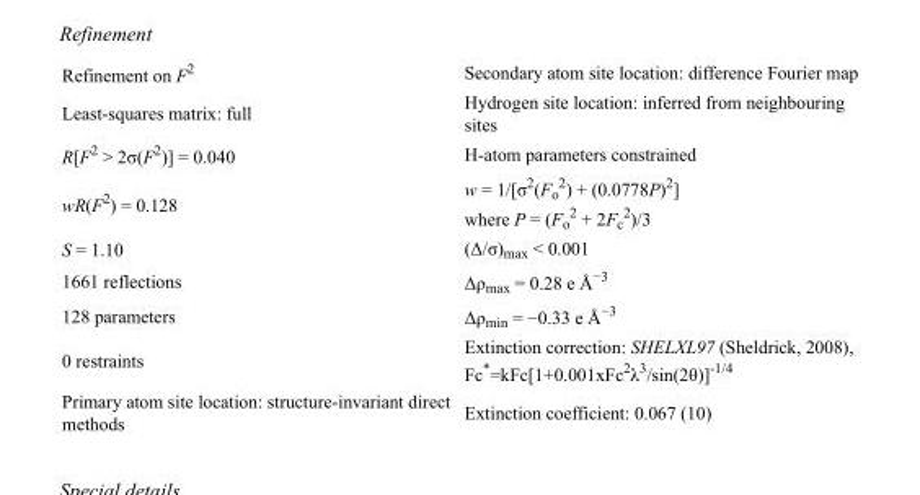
<table><tbody><tr><td>Refinement on F<sup>2</sup></td><td>Secondary atom site location: difference Fourier map</td></tr><tr><td>Least-squares matrix: full</td><td>Hydrogen site location: inferred from neighbouring sites</td></tr><tr><td>R[F<sup>2</sup> &gt; 2σ(F<sup>2</sup>)] = 0.040</td><td>H-atom parameters constrained</td></tr><tr><td>wR(F<sup>2</sup>) = 0.128</td><td>w = 1/[σ<sup>2</sup>(F<sub>o</sub> <sup>2</sup>) + (0.0778P)<sup>2</sup>] where P = (F<sub>o</sub> <sup>2</sup> + 2F<sub>c</sub> <sup>2</sup>)/3</td></tr><tr><td>S = 1.10</td><td>(Δ/σ)<sub>max</sub> &lt; 0.001</td></tr><tr><td>1661 reflections</td><td>Δρ<sub>max</sub> = 0.28 e Å<sup>−3</sup></td></tr><tr><td>128 parameters</td><td>Δρ<sub>min</sub> = −0.33 e Å<sup>−3</sup></td></tr><tr><td>0 restraints</td><td>Extinction correction: SHELXL97 (Sheldrick, 2008), Fc*=kFc[1+0.001xFc<sup>2</sup>λ<sup>3</sup>/sin(2θ)]<sup>-1/4</sup></td></tr><tr><td>Primary atom site location: structure-invariant direct methods</td><td>Extinction coefficient: 0.067 (10)</td></tr></tbody></table>